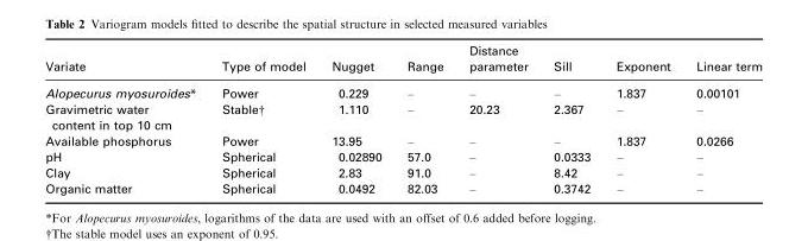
<table><thead><tr><td>Variate</td><td>Type of model</td><td>Nugget</td><td>Range</td><td>Distance parameter</td><td>Sill</td><td>Exponent</td><td>Linear term</td></tr></thead><tbody><tr><td>Alopecurus myosuroides*</td><td>Power</td><td>0.229</td><td>–</td><td>–</td><td>–</td><td>1.837</td><td>0.00101</td></tr><tr><td>Gravimetric water content in top 10 cm</td><td>Stable†</td><td>1.110</td><td>–</td><td>20.23</td><td>2.367</td><td>–</td><td>–</td></tr><tr><td>Available phosphorus</td><td>Power</td><td>13.95</td><td>–</td><td>–</td><td>–</td><td>1.837</td><td>0.0266</td></tr><tr><td>pH</td><td>Spherical</td><td>0.02890</td><td>57.0</td><td>–</td><td>0.0333</td><td>–</td><td>–</td></tr><tr><td>Clay</td><td>Spherical</td><td>2.83</td><td>91.0</td><td>–</td><td>8.42</td><td>–</td><td>–</td></tr><tr><td>Organic matter</td><td>Spherical</td><td>0.0492</td><td>82.03</td><td>–</td><td>0.3742</td><td>–</td><td>–</td></tr></tbody></table>